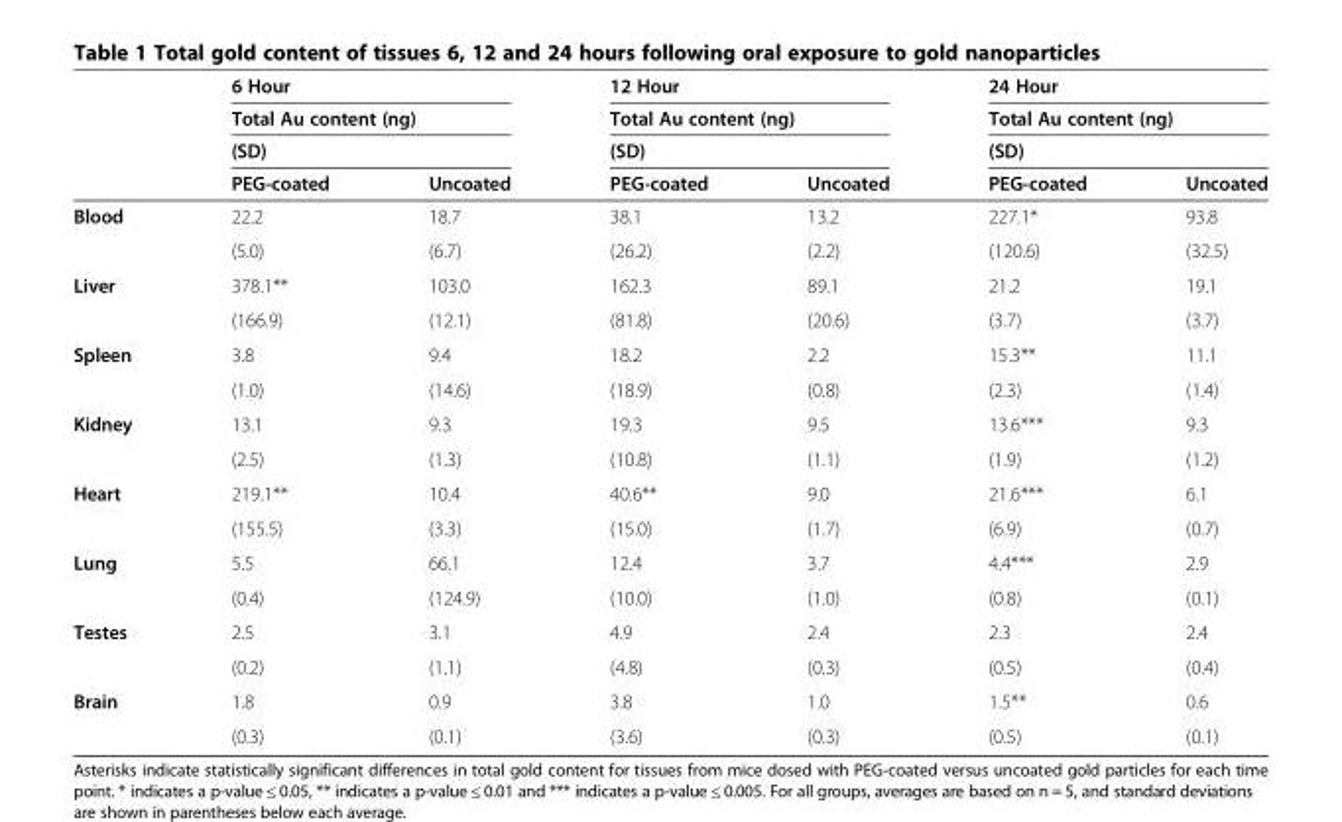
<table><thead><tr><td rowspan="4"></td><td rowspan="3" colspan="2">6 Hour Total Au content (ng) (SD)</td><td rowspan="3" colspan="2">12 Hour Total Au content (ng) (SD)</td><td rowspan="3" colspan="2">24 Hour Total Au content (ng) (SD)</td></tr><tr></tr><tr></tr><tr><td>PEG-coated</td><td>Uncoated</td><td>PEG-coated</td><td>Uncoated</td><td>PEG-coated</td><td>Uncoated</td></tr></thead><tbody><tr><td rowspan="2">Blood</td><td>22.2</td><td>18.7</td><td>38.1</td><td>13.2</td><td>227.1*</td><td>93.8</td></tr><tr><td>(5.0)</td><td>(6.7)</td><td>(26.2)</td><td>(2.2)</td><td>(120.6)</td><td>(32.5)</td></tr><tr><td rowspan="2">Liver</td><td>378.1**</td><td>103.0</td><td>162.3</td><td>89.1</td><td>21.2</td><td>19.1</td></tr><tr><td>(166.9)</td><td>(12.1)</td><td>(81.8)</td><td>(20.6)</td><td>(3.7)</td><td>(3.7)</td></tr><tr><td rowspan="2">Spleen</td><td>3.8</td><td>9.4</td><td>18.2</td><td>2.2</td><td>15.3**</td><td>11.1</td></tr><tr><td>(1.0)</td><td>(14.6)</td><td>(18.9)</td><td>(0.8)</td><td>(2.3)</td><td>(1.4)</td></tr><tr><td rowspan="2">Kidney</td><td>13.1</td><td>9.3</td><td>19.3</td><td>9.5</td><td>13.6***</td><td>9.3</td></tr><tr><td>(2.5)</td><td>(1.3)</td><td>(10.8)</td><td>(1.1)</td><td>(1.9)</td><td>(1.2)</td></tr><tr><td rowspan="2">Heart</td><td>219.1**</td><td>10.4</td><td>40.6**</td><td>9.0</td><td>21.6***</td><td>6.1</td></tr><tr><td>(155.5)</td><td>(3.3)</td><td>(15.0)</td><td>(1.7)</td><td>(6.9)</td><td>(0.7)</td></tr><tr><td rowspan="2">Lung</td><td>5.5</td><td>66.1</td><td>12.4</td><td>3.7</td><td>4.4***</td><td>2.9</td></tr><tr><td>(0.4)</td><td>(124.9)</td><td>(10.0)</td><td>(1.0)</td><td>(0.8)</td><td>(0.1)</td></tr><tr><td rowspan="2">Testes</td><td>2.5</td><td>3.1</td><td>4.9</td><td>2.4</td><td>2.3</td><td>2.4</td></tr><tr><td>(0.2)</td><td>(1.1)</td><td>(4.8)</td><td>(0.3)</td><td>(0.5)</td><td>(0.4)</td></tr><tr><td rowspan="2">Brain</td><td>1.8</td><td>0.9</td><td>3.8</td><td>1.0</td><td>1.5**</td><td>0.6</td></tr><tr><td>(0.3)</td><td>(0.1)</td><td>(3.6)</td><td>(0.3)</td><td>(0.5)</td><td>(0.1)</td></tr></tbody></table>